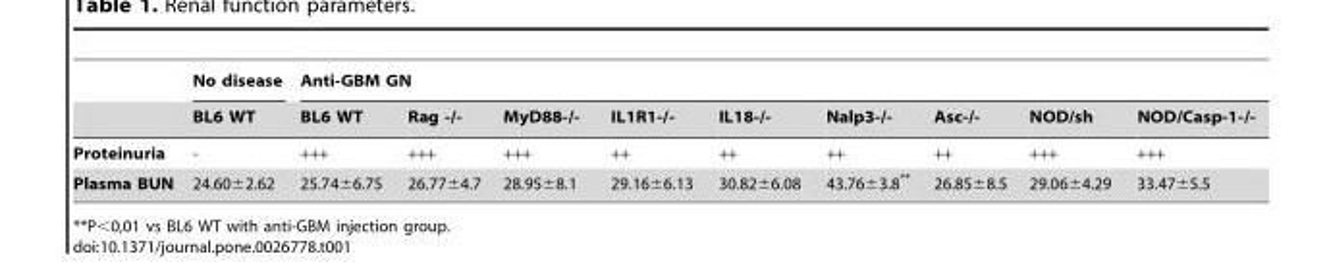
<table><thead><tr><td rowspan="2"></td><td rowspan="2">No disease BL6 WT</td><td colspan="9">Anti-GBM GN</td></tr><tr><td>BL6 WT</td><td>Rag -/-</td><td>MyD88-/-</td><td>IL1R1-/-</td><td>IL18-/-</td><td>Nalp3-/-</td><td>Asc-/-</td><td>NOD/sh</td><td>NOD/Casp-1-/-</td></tr></thead><tbody><tr><td>Proteinuria</td><td>-</td><td>+++</td><td>+++</td><td>+++</td><td>++</td><td>++</td><td>++</td><td>++</td><td>+++</td><td>+++</td></tr><tr><td>Plasma BUN</td><td>24.60±2.62</td><td>25.74±6.75</td><td>26.77±4.7</td><td>28.95±8.1</td><td>29.16±6.13</td><td>30.82±6.08</td><td>43.76±3.8**</td><td>26.85±8.5</td><td>29.06±4.29</td><td>33.47±5.5</td></tr></tbody></table>